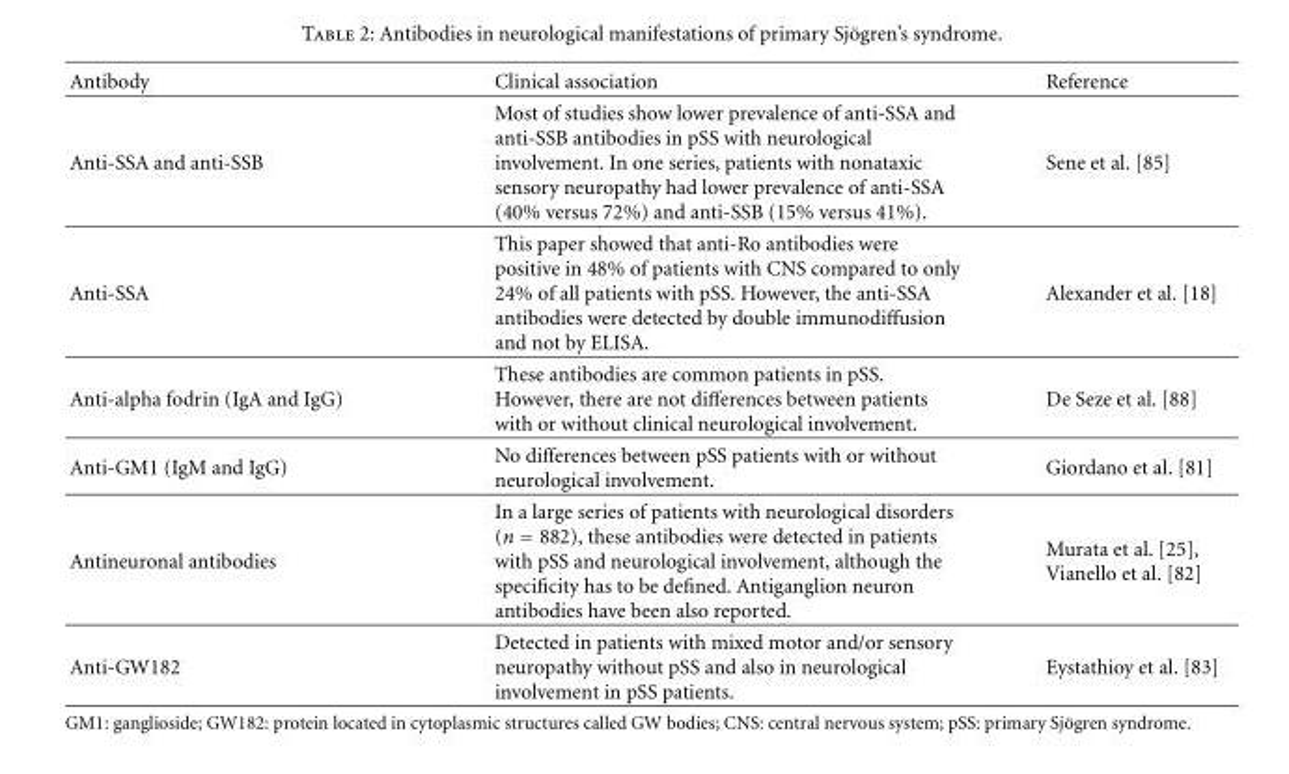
<table><thead><tr><td>Antibody</td><td>Clinical association</td><td>Reference</td></tr></thead><tbody><tr><td>Anti-SSA and anti-SSB</td><td>Most of studies show lower prevalence of anti-SSA and anti-SSB antibodies in pSS with neurological involvement. In one series, patients with nonataxic sensory neuropathy had lower prevalence of anti-SSA (40% versus 72%) and anti-SSB (15% versus 41%).</td><td>Sene et al. [85]</td></tr><tr><td>Anti-SSA</td><td>This paper showed that anti-Ro antibodies were positive in 48% of patients with CNS compared to only 24% of all patients with pSS. However, the anti-SSA antibodies were detected by double immunodiffusion and not by ELISA.</td><td>Alexander et al. [18]</td></tr><tr><td>Anti-alpha fodrin (IgA and IgG)</td><td>These antibodies are common patients in pSS. However, there are not differences between patients with or without clinical neurological involvement.</td><td>De Seze et al. [88]</td></tr><tr><td>Anti-GM1 (IgM and IgG)</td><td>No differences between pSS patients with or without neurological involvement.</td><td>Giordano et al. [81]</td></tr><tr><td>Antineuronal antibodies</td><td>In a large series of patients with neurological disorders (n = 882), these antibodies were detected in patients with pSS and neurological involvement, although the specificity has to be defined. Antiganglion neuron antibodies have been also reported.</td><td>Murata et al. [25], Vianello et al. [82]</td></tr><tr><td>Anti-GW182</td><td>Detected in patients with mixed motor and/or sensory neuropathy without pSS and also in neurological involvement in pSS patients.</td><td>Eystathioy et al. [83]</td></tr></tbody></table>